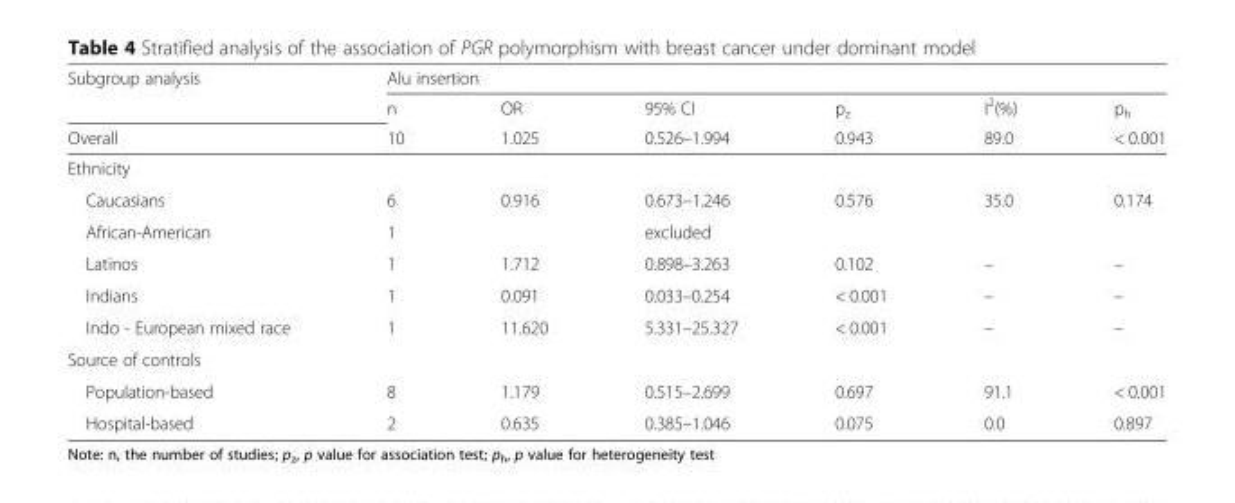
<table><thead><tr><td rowspan="3">Subgroup analysis Overall</td><td colspan="6">Alu insertion</td></tr><tr><td rowspan="2">n 10</td><td rowspan="2">OR 1.025</td><td rowspan="2">95% CI 0.526–1.994</td><td rowspan="2">p<sub>z</sub> 0.943</td><td rowspan="2">I<sup>2</sup>(%) 89.0</td><td rowspan="2">p<sub>h</sub> &lt; 0.001</td></tr><tr></tr></thead><tbody><tr><td colspan="7">Ethnicity</td></tr><tr><td>Caucasians</td><td>6</td><td>0.916</td><td>0.673–1.246</td><td>0.576</td><td>35.0</td><td>0.174</td></tr><tr><td>African-American</td><td>1</td><td></td><td>excluded</td><td></td><td></td><td></td></tr><tr><td>Latinos</td><td>1</td><td>1.712</td><td>0.898–3.263</td><td>0.102</td><td>–</td><td>–</td></tr><tr><td>Indians</td><td>1</td><td>0.091</td><td>0.033–0.254</td><td>&lt; 0.001</td><td>–</td><td>–</td></tr><tr><td>Indo - European mixed race</td><td>1</td><td>11.620</td><td>5.331–25.327</td><td>&lt; 0.001</td><td>–</td><td>–</td></tr><tr><td colspan="7">Source of controls</td></tr><tr><td>Population-based</td><td>8</td><td>1.179</td><td>0.515–2.699</td><td>0.697</td><td>91.1</td><td>&lt; 0.001</td></tr><tr><td>Hospital-based</td><td>2</td><td>0.635</td><td>0.385–1.046</td><td>0.075</td><td>0.0</td><td>0.897</td></tr></tbody></table>